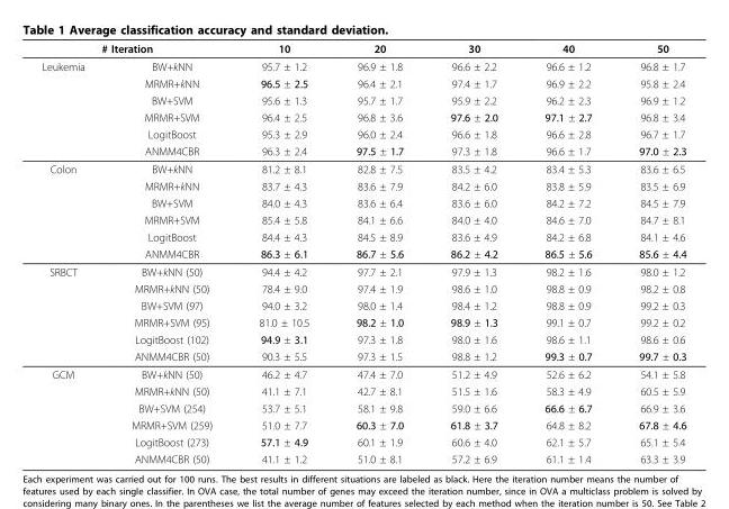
<table><thead><tr><td colspan="2"># Iteration</td><td rowspan="2">10 95.7 ± 1.2</td><td rowspan="2">20 96.9 ± 1.8</td><td rowspan="2">30 96.6 ± 2.2</td><td rowspan="2">40 96.6 ± 1.2</td><td rowspan="2">50 96.8 ± 1.7</td></tr><tr><td>Leukemia</td><td>BW+kNN</td></tr></thead><tbody><tr><td></td><td>MRMR+kNN</td><td>96.5 ± 2.5</td><td>96.4 ± 2.1</td><td>97.4 ± 1.7</td><td>96.9 ± 2.2</td><td>95.8 ± 2.4</td></tr><tr><td></td><td>BW+SVM</td><td>95.6 ± 1.3</td><td>95.7 ± 1.7</td><td>95.9 ± 2.2</td><td>96.2 ± 2.3</td><td>96.9 ± 1.2</td></tr><tr><td></td><td>MRMR+SVM</td><td>96.4 ± 2.5</td><td>96.8 ± 3.6</td><td>97.6 ± 2.0</td><td>97.1 ± 2.7</td><td>96.8 ± 3.4</td></tr><tr><td></td><td>LogitBoost</td><td>95.3 ± 2.9</td><td>96.0 ± 2.4</td><td>96.6 ± 1.8</td><td>96.6 ± 2.8</td><td>96.7 ± 1.7</td></tr><tr><td></td><td>ANMM4CBR</td><td>96.3 ± 2.4</td><td>97.5 ± 1.7</td><td>97.3 ± 1.8</td><td>96.6 ± 1.7</td><td>97.0 ± 2.3</td></tr><tr><td rowspan="6">Colon</td><td>BW+kNN</td><td>81.2 ± 8.1</td><td>82.8 ± 7.5</td><td>83.5 ± 4.2</td><td>83.4 ± 5.3</td><td>83.6 ± 6.5</td></tr><tr><td>MRMR+kNN</td><td>83.7 ± 4.3</td><td>83.6 ± 7.9</td><td>84.2 ± 6.0</td><td>83.8 ± 5.9</td><td>83.5 ± 6.9</td></tr><tr><td>BW+SVM</td><td>84.0 ± 4.3</td><td>83.6 ± 6.4</td><td>83.6 ± 6.0</td><td>84.2 ± 7.2</td><td>84.5 ± 7.9</td></tr><tr><td>MRMR+SVM</td><td>85.4 ± 5.8</td><td>84.1 ± 6.6</td><td>84.0 ± 4.0</td><td>84.6 ± 7.0</td><td>84.7 ± 8.1</td></tr><tr><td>LogitBoost</td><td>84.4 ± 4.3</td><td>84.5 ± 8.9</td><td>83.6 ± 4.9</td><td>84.2 ± 6.8</td><td>84.1 ± 4.6</td></tr><tr><td>ANMM4CBR</td><td>86.3 ± 6.1</td><td>86.7 ± 5.6</td><td>86.2 ± 4.2</td><td>86.5 ± 5.6</td><td>85.6 ± 4.4</td></tr><tr><td rowspan="6">SRBCT</td><td>BW+kNN (50)</td><td>94.4 ± 4.2</td><td>97.7 ± 2.1</td><td>97.9 ± 1.3</td><td>98.2 ± 1.6</td><td>98.0 ± 1.2</td></tr><tr><td>MRMR+kNN (50)</td><td>78.4 ± 9.0</td><td>97.4 ± 1.9</td><td>98.6 ± 1.0</td><td>98.8 ± 0.9</td><td>98.2 ± 0.8</td></tr><tr><td>BW+SVM (97)</td><td>94.0 ± 3.2</td><td>98.0 ± 1.4</td><td>98.4 ± 1.2</td><td>98.8 ± 0.9</td><td>99.2 ± 0.3</td></tr><tr><td>MRMR+SVM (95)</td><td>81.0 ± 10.5</td><td>98.2 ± 1.0</td><td>98.9 ± 1.3</td><td>99.1 ± 0.7</td><td>99.2 ± 0.2</td></tr><tr><td>LogitBoost (102)</td><td>94.9 ± 3.1</td><td>97.3 ± 1.8</td><td>98.0 ± 1.6</td><td>98.6 ± 1.1</td><td>98.6 ± 0.6</td></tr><tr><td>ANMM4CBR (50)</td><td>90.3 ± 5.5</td><td>97.3 ± 1.5</td><td>98.8 ± 1.2</td><td>99.3 ± 0.7</td><td>99.7 ± 0.3</td></tr><tr><td rowspan="6">GCM</td><td>BW+kNN (50)</td><td>46.2 ± 4.7</td><td>47.4 ± 7.0</td><td>51.2 ± 4.9</td><td>52.6 ± 6.2</td><td>54.1 ± 5.8</td></tr><tr><td>MRMR+kNN (50)</td><td>41.1 ± 7.1</td><td>42.7 ± 8.1</td><td>51.5 ± 1.6</td><td>58.3 ± 4.9</td><td>60.5 ± 5.9</td></tr><tr><td>BW+SVM (254)</td><td>53.7 ± 5.1</td><td>58.1 ± 9.8</td><td>59.0 ± 6.6</td><td>66.6 ± 6.7</td><td>66.9 ± 3.6</td></tr><tr><td>MRMR+SVM (259)</td><td>51.0 ± 7.7</td><td>60.3 ± 7.0</td><td>61.8 ± 3.7</td><td>64.8 ± 8.2</td><td>67.8 ± 4.6</td></tr><tr><td>LogitBoost (273)</td><td>57.1 ± 4.9</td><td>60.1 ± 1.9</td><td>60.6 ± 4.0</td><td>62.1 ± 5.7</td><td>65.1 ± 5.4</td></tr><tr><td>ANMM4CBR (50)</td><td>41.1 ± 1.2</td><td>51.0 ± 8.1</td><td>57.2 ± 6.9</td><td>61.1 ± 1.4</td><td>63.3 ± 3.9</td></tr></tbody></table>